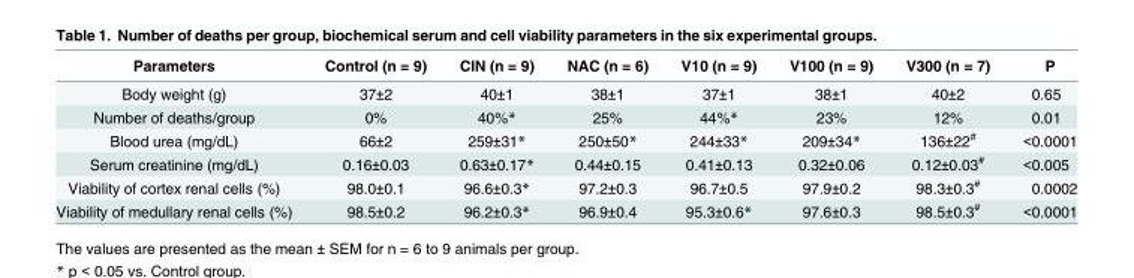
<table><thead><tr><td>Parameters</td><td>Control (n = 9)</td><td>CIN (n = 9)</td><td>NAC (n = 6)</td><td>V10 (n = 9)</td><td>V100 (n = 9)</td><td>V300 (n = 7)</td><td>P</td></tr></thead><tbody><tr><td>Body weight (g)</td><td>37±2</td><td>40±1</td><td>38±1</td><td>37±1</td><td>38±1</td><td>40±2</td><td>0.65</td></tr><tr><td>Number of deaths/group</td><td>0%</td><td>40%*</td><td>25%</td><td>44%*</td><td>23%</td><td>12%</td><td>0.01</td></tr><tr><td>Blood urea (mg/dL)</td><td>66±2</td><td>259±31*</td><td>250±50*</td><td>244±33*</td><td>209±34*</td><td>136±22<sup>#</sup></td><td>&lt;0.0001</td></tr><tr><td>Serum creatinine (mg/dL)</td><td>0.16±0.03</td><td>0.63±0.17*</td><td>0.44±0.15</td><td>0.41±0.13</td><td>0.32±0.06</td><td>0.12±0.03<sup>#</sup></td><td>&lt;0.005</td></tr><tr><td>Viability of cortex renal cells (%)</td><td>98.0±0.1</td><td>96.6±0.3*</td><td>97.2±0.3</td><td>96.7±0.5</td><td>97.9±0.2</td><td>98.3±0.3<sup>#</sup></td><td>0.0002</td></tr><tr><td>Viability of medullary renal cells (%)</td><td>98.5±0.2</td><td>96.2±0.3*</td><td>96.9±0.4</td><td>95.3±0.6*</td><td>97.6±0.3</td><td>98.5±0.3<sup>#</sup></td><td>&lt;0.0001</td></tr></tbody></table>